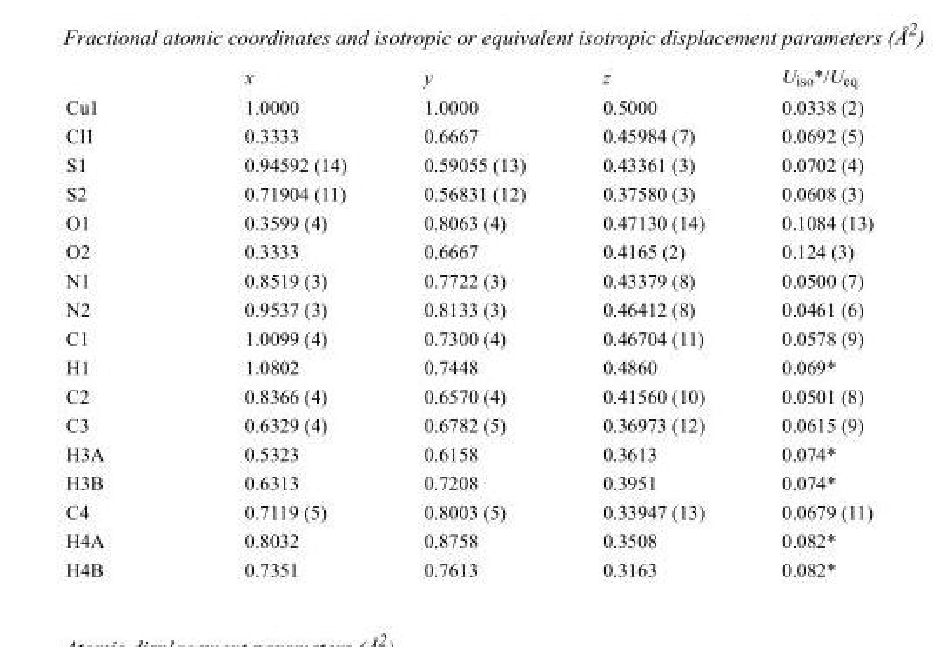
<table><thead><tr><td></td><td>x</td><td>y</td><td>z</td><td>U<sub>iso</sub>*/U<sub>eq</sub></td></tr></thead><tbody><tr><td>Cu1</td><td>1.0000</td><td>1.0000</td><td>0.5000</td><td>0.0338 (2)</td></tr><tr><td>Cl1</td><td>0.3333</td><td>0.6667</td><td>0.45984 (7)</td><td>0.0692 (5)</td></tr><tr><td>S1</td><td>0.94592 (14)</td><td>0.59055 (13)</td><td>0.43361 (3)</td><td>0.0702 (4)</td></tr><tr><td>S2</td><td>0.71904 (11)</td><td>0.56831 (12)</td><td>0.37580 (3)</td><td>0.0608 (3)</td></tr><tr><td>O1</td><td>0.3599 (4)</td><td>0.8063 (4)</td><td>0.47130 (14)</td><td>0.1084 (13)</td></tr><tr><td>O2</td><td>0.3333</td><td>0.6667</td><td>0.4165 (2)</td><td>0.124 (3)</td></tr><tr><td>N1</td><td>0.8519 (3)</td><td>0.7722 (3)</td><td>0.43379 (8)</td><td>0.0500 (7)</td></tr><tr><td>N2</td><td>0.9537 (3)</td><td>0.8133 (3)</td><td>0.46412 (8)</td><td>0.0461 (6)</td></tr><tr><td>C1</td><td>1.0099 (4)</td><td>0.7300 (4)</td><td>0.46704 (11)</td><td>0.0578 (9)</td></tr><tr><td>H1</td><td>1.0802</td><td>0.7448</td><td>0.4860</td><td>0.069*</td></tr><tr><td>C2</td><td>0.8366 (4)</td><td>0.6570 (4)</td><td>0.41560 (10)</td><td>0.0501 (8)</td></tr><tr><td>C3</td><td>0.6329 (4)</td><td>0.6782 (5)</td><td>0.36973 (12)</td><td>0.0615 (9)</td></tr><tr><td>H3A</td><td>0.5323</td><td>0.6158</td><td>0.3613</td><td>0.074*</td></tr><tr><td>H3B</td><td>0.6313</td><td>0.7208</td><td>0.3951</td><td>0.074*</td></tr><tr><td>C4</td><td>0.7119 (5)</td><td>0.8003 (5)</td><td>0.33947 (13)</td><td>0.0679 (11)</td></tr><tr><td>H4A</td><td>0.8032</td><td>0.8758</td><td>0.3508</td><td>0.082*</td></tr><tr><td>H4B</td><td>0.7351</td><td>0.7613</td><td>0.3163</td><td>0.082*</td></tr></tbody></table>